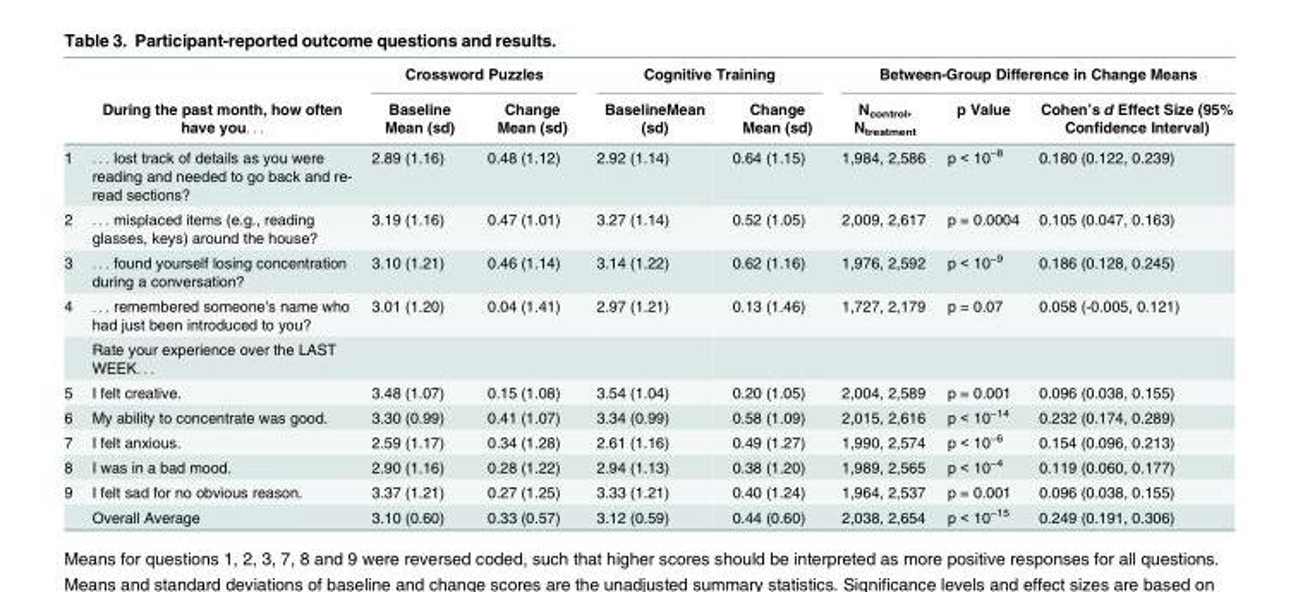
<table><thead><tr><td rowspan="2"></td><td rowspan="2">During the past month, how often have you. . .</td><td colspan="2">Crossword Puzzles</td><td colspan="2">Cognitive Training</td><td colspan="3">Between-Group Difference in Change Means</td></tr><tr><td>Baseline Mean (sd)</td><td>Change Mean (sd)</td><td>BaselineMean (sd)</td><td>Change Mean (sd)</td><td>N<sub>control</sub>, N<sub>treatment</sub></td><td>p Value</td><td>Cohen’s d Effect Size (95% Confidence Interval)</td></tr></thead><tbody><tr><td>1</td><td>. . . lost track of details as you were reading and needed to go back and re- read sections?</td><td>2.89 (1.16)</td><td>0.48 (1.12)</td><td>2.92 (1.14)</td><td>0.64 (1.15)</td><td>1,984, 2,586</td><td>p &lt; 10<sup>−8</sup></td><td>0.180 (0.122, 0.239)</td></tr><tr><td>2</td><td>. . . misplaced items (e.g., reading glasses, keys) around the house?</td><td>3.19 (1.16)</td><td>0.47 (1.01)</td><td>3.27 (1.14)</td><td>0.52 (1.05)</td><td>2,009, 2,617</td><td>p = 0.0004</td><td>0.105 (0.047, 0.163)</td></tr><tr><td>3</td><td>. . . found yourself losing concentration during a conversation?</td><td>3.10 (1.21)</td><td>0.46 (1.14)</td><td>3.14 (1.22)</td><td>0.62 (1.16)</td><td>1,976, 2,592</td><td>p &lt; 10<sup>−9</sup></td><td>0.186 (0.128, 0.245)</td></tr><tr><td rowspan="2">4</td><td>. . . remembered someone&#x27;s name who had just been introduced to you?</td><td>3.01 (1.20)</td><td>0.04 (1.41)</td><td>2.97 (1.21)</td><td>0.13 (1.46)</td><td>1,727, 2,179</td><td>p = 0.07</td><td>0.058 (-0.005, 0.121)</td></tr><tr><td>Rate your experience over the LAST WEEK. . .</td><td></td><td></td><td></td><td></td><td></td><td></td><td></td></tr><tr><td>5</td><td>I felt creative.</td><td>3.48 (1.07)</td><td>0.15 (1.08)</td><td>3.54 (1.04)</td><td>0.20 (1.05)</td><td>2,004, 2,589</td><td>p = 0.001</td><td>0.096 (0.038, 0.155)</td></tr><tr><td>6</td><td>My ability to concentrate was good.</td><td>3.30 (0.99)</td><td>0.41 (1.07)</td><td>3.34 (0.99)</td><td>0.58 (1.09)</td><td>2,015, 2,616</td><td>p &lt; 10<sup>−14</sup></td><td>0.232 (0.174, 0.289)</td></tr><tr><td>7</td><td>I felt anxious.</td><td>2.59 (1.17)</td><td>0.34 (1.28)</td><td>2.61 (1.16)</td><td>0.49 (1.27)</td><td>1,990, 2,574</td><td>p &lt; 10<sup>−6</sup></td><td>0.154 (0.096, 0.213)</td></tr><tr><td>8</td><td>I was in a bad mood.</td><td>2.90 (1.16)</td><td>0.28 (1.22)</td><td>2.94 (1.13)</td><td>0.38 (1.20)</td><td>1,989, 2,565</td><td>p &lt; 10<sup>−4</sup></td><td>0.119 (0.060, 0.177)</td></tr><tr><td rowspan="2">9</td><td>I felt sad for no obvious reason.</td><td>3.37 (1.21)</td><td>0.27 (1.25)</td><td>3.33 (1.21)</td><td>0.40 (1.24)</td><td>1,964, 2,537</td><td>p = 0.001</td><td>0.096 (0.038, 0.155)</td></tr><tr><td>Overall Average</td><td>3.10 (0.60)</td><td>0.33 (0.57)</td><td>3.12 (0.59)</td><td>0.44 (0.60)</td><td>2,038, 2,654</td><td>p &lt; 10<sup>−15</sup></td><td>0.249 (0.191, 0.306)</td></tr></tbody></table>